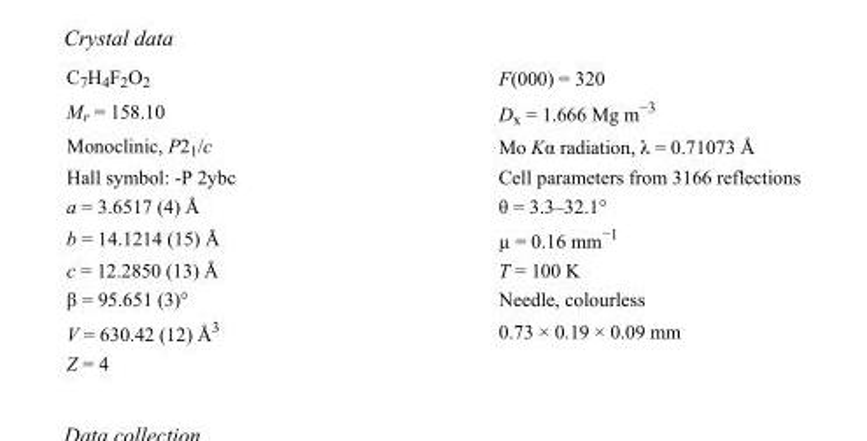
<table><tbody><tr><td>C<sub>7</sub>H<sub>4</sub>F<sub>2</sub>O<sub>2</sub></td><td>F(000) = 320</td></tr><tr><td>M<sub>r</sub> = 158.10</td><td>D<sub>x</sub> = 1.666 Mg m<sup>−3</sup></td></tr><tr><td>Monoclinic, P2<sub>1</sub>/c</td><td>Mo Kα radiation, λ = 0.71073 Å</td></tr><tr><td>Hall symbol: -P 2ybc</td><td>Cell parameters from 3166 reflections</td></tr><tr><td>a = 3.6517 (4) Å</td><td>θ = 3.3–32.1°</td></tr><tr><td>b = 14.1214 (15) Å</td><td>µ = 0.16 mm<sup>−1</sup></td></tr><tr><td>c = 12.2850 (13) Å</td><td>T = 100 K</td></tr><tr><td>β = 95.651 (3)°</td><td>Needle, colourless</td></tr><tr><td>V = 630.42 (12) Å<sup>3</sup></td><td>0.73 × 0.19 × 0.09 mm</td></tr><tr><td>Z = 4</td><td></td></tr></tbody></table>